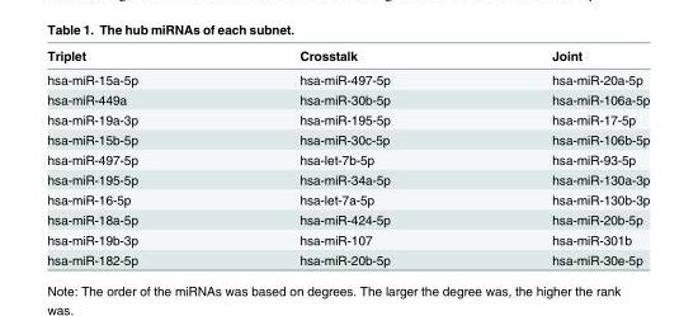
<table><thead><tr><td>Triplet</td><td>Crosstalk</td><td>Joint</td></tr></thead><tbody><tr><td>hsa-miR-15a-5p</td><td>hsa-miR-497-5p</td><td>hsa-miR-20a-5p</td></tr><tr><td>hsa-miR-449a</td><td>hsa-miR-30b-5p</td><td>hsa-miR-106a-5p</td></tr><tr><td>hsa-miR-19a-3p</td><td>hsa-miR-195-5p</td><td>hsa-miR-17-5p</td></tr><tr><td>hsa-miR-15b-5p</td><td>hsa-miR-30c-5p</td><td>hsa-miR-106b-5p</td></tr><tr><td>hsa-miR-497-5p</td><td>hsa-let-7b-5p</td><td>hsa-miR-93-5p</td></tr><tr><td>hsa-miR-195-5p</td><td>hsa-miR-34a-5p</td><td>hsa-miR-130a-3p</td></tr><tr><td>hsa-miR-16-5p</td><td>hsa-let-7a-5p</td><td>hsa-miR-130b-3p</td></tr><tr><td>hsa-miR-18a-5p</td><td>hsa-miR-424-5p</td><td>hsa-miR-20b-5p</td></tr><tr><td>hsa-miR-19b-3p</td><td>hsa-miR-107</td><td>hsa-miR-301b</td></tr><tr><td>hsa-miR-182-5p</td><td>hsa-miR-20b-5p</td><td>hsa-miR-30e-5p</td></tr></tbody></table>